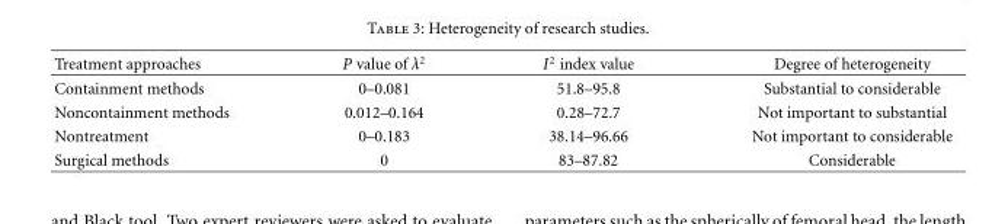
<table><thead><tr><td>Treatment approaches</td><td>P value of λ<sup>2</sup></td><td>I<sup>2</sup> index value</td><td>Degree of heterogeneity</td></tr></thead><tbody><tr><td>Containment methods</td><td>0–0.081</td><td>51.8–95.8</td><td>Substantial to considerable</td></tr><tr><td>Noncontainment methods</td><td>0.012–0.164</td><td>0.28–72.7</td><td>Not important to substantial</td></tr><tr><td>Nontreatment</td><td>0–0.183</td><td>38.14–96.66</td><td>Not important to considerable</td></tr><tr><td>Surgical methods</td><td>0</td><td>83–87.82</td><td>Considerable</td></tr></tbody></table>